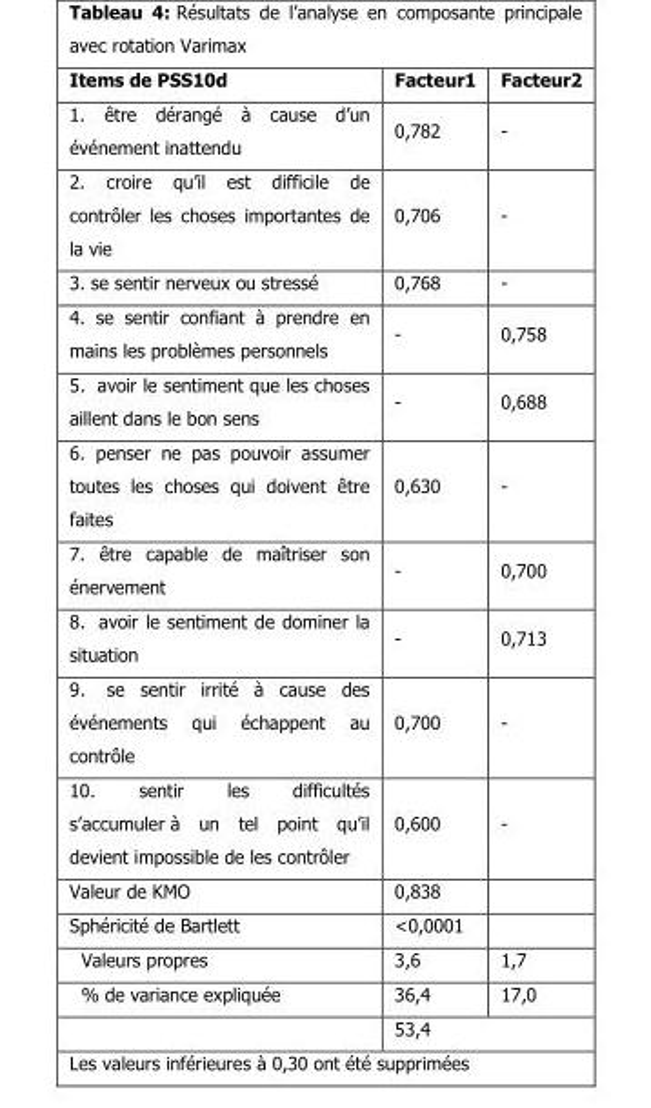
<table><thead><tr><td>Items de PSS10d</td><td>Facteur1</td><td>Facteur2</td></tr></thead><tbody><tr><td>1. être dérangé à cause d’un événement inattendu</td><td>0,782</td><td>-</td></tr><tr><td>2. croire qu’il est difficile de contrôler les choses importantes de la vie</td><td>0,706</td><td>-</td></tr><tr><td>3. se sentir nerveux ou stressé</td><td>0,768</td><td>-</td></tr><tr><td>4. se sentir confiant à prendre en mains les problèmes personnels</td><td>-</td><td>0,758</td></tr><tr><td>5. avoir le sentiment que les choses aillent dans le bon sens</td><td>-</td><td>0,688</td></tr><tr><td>6. penser ne pas pouvoir assumer toutes les choses qui doivent être faites</td><td>0,630</td><td>-</td></tr><tr><td>7. être capable de maîtriser son énervement</td><td>-</td><td>0,700</td></tr><tr><td>8. avoir le sentiment de dominer la situation</td><td>-</td><td>0,713</td></tr><tr><td>9. se sentir irrité à cause des événements qui échappent au contrôle</td><td>0,700</td><td>-</td></tr><tr><td>10. sentir les difficultés s’accumuler à un tel point qu’il devient impossible de les contrôler</td><td>0,600</td><td>-</td></tr><tr><td>Valeur de KMO</td><td>0,838</td><td></td></tr><tr><td>Sphéricité de Bartlett</td><td>&lt;0,0001</td><td></td></tr><tr><td>Valeurs propres</td><td>3,6</td><td>1,7</td></tr><tr><td rowspan="2">% de variance expliquée</td><td>36,4</td><td>17,0</td></tr><tr><td>53,4</td><td></td></tr></tbody></table>